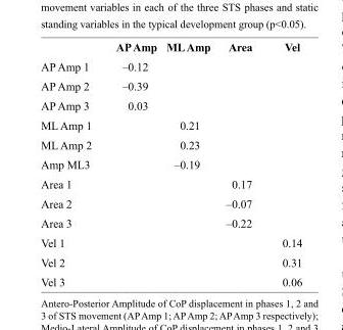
<table><thead><tr><td></td><td>AP Amp</td><td>ML Amp</td><td>Area</td><td>Vel</td></tr></thead><tbody><tr><td>AP Amp 1</td><td>–0.12</td><td></td><td></td><td></td></tr><tr><td>AP Amp 2</td><td>–0.39</td><td></td><td></td><td></td></tr><tr><td>AP Amp 3</td><td>0.03</td><td></td><td></td><td></td></tr><tr><td>ML Amp 1</td><td></td><td>0.21</td><td></td><td></td></tr><tr><td>ML Amp 2</td><td></td><td>0.23</td><td></td><td></td></tr><tr><td>Amp ML3</td><td></td><td>–0.19</td><td></td><td></td></tr><tr><td>Area 1</td><td></td><td></td><td>0.17</td><td></td></tr><tr><td>Area 2</td><td></td><td></td><td>–0.07</td><td></td></tr><tr><td>Area 3</td><td></td><td></td><td>–0.22</td><td></td></tr><tr><td>Vel 1</td><td></td><td></td><td></td><td>0.14</td></tr><tr><td>Vel 2</td><td></td><td></td><td></td><td>0.31</td></tr><tr><td>Vel 3</td><td></td><td></td><td></td><td>0.06</td></tr></tbody></table>